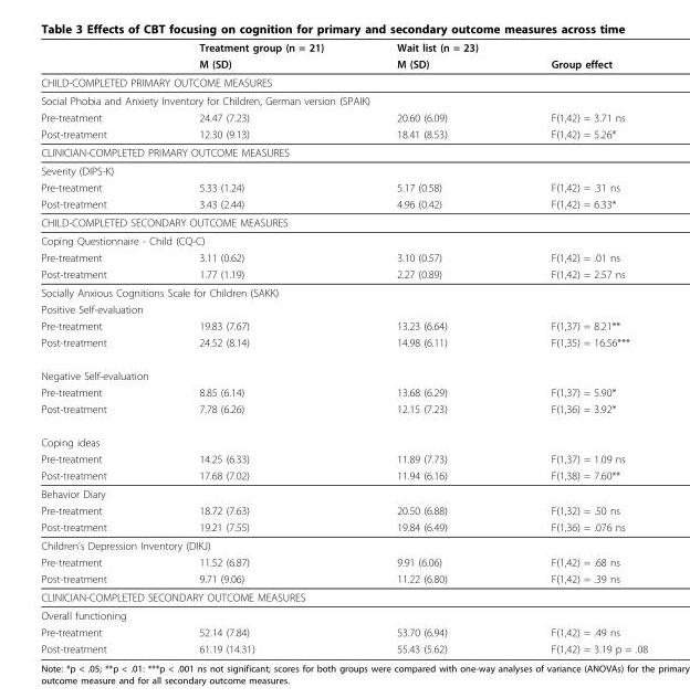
<table><thead><tr><td rowspan="2"></td><td rowspan="2">Treatment group (n = 21) M (SD)</td><td rowspan="2">Wait list (n = 23) M (SD)</td><td rowspan="2">Group effect</td></tr><tr></tr></thead><tbody><tr><td colspan="4">CHILD-COMPLETED PRIMARY OUTCOME MEASURES</td></tr><tr><td colspan="4">Social Phobia and Anxiety Inventory for Children, German version (SPAIK)</td></tr><tr><td>Pre-treatment</td><td>24.47 (7.23)</td><td>20.60 (6.09)</td><td>F(1,42) = 3.71 ns</td></tr><tr><td>Post-treatment</td><td>12.30 (9.13)</td><td>18.41 (8.53)</td><td>F(1,42) = 5.26*</td></tr><tr><td colspan="4">CLINICIAN-COMPLETED PRIMARY OUTCOME MEASURES</td></tr><tr><td colspan="4">Severity (DIPS-K)</td></tr><tr><td>Pre-treatment</td><td>5.33 (1.24)</td><td>5.17 (0.58)</td><td>F(1,42) = .31 ns</td></tr><tr><td>Post-treatment</td><td>3.43 (2.44)</td><td>4.96 (0.42)</td><td>F(1,42) = 6.33*</td></tr><tr><td colspan="4">CHILD-COMPLETED SECONDARY OUTCOME MEASURES</td></tr><tr><td colspan="4">Coping Questionnaire - Child (CQ-C)</td></tr><tr><td>Pre-treatment</td><td>3.11 (0.62)</td><td>3.10 (0.57)</td><td>F(1,42) = .01 ns</td></tr><tr><td>Post-treatment</td><td>1.77 (1.19)</td><td>2.27 (0.89)</td><td>F(1,42) = 2.57 ns</td></tr><tr><td colspan="4">Socially Anxious Cognitions Scale for Children (SAKK)</td></tr><tr><td colspan="4">Positive Self-evaluation</td></tr><tr><td>Pre-treatment</td><td>19.83 (7.67)</td><td>13.23 (6.64)</td><td>F(1,37) = 8.21**</td></tr><tr><td>Post-treatment</td><td>24.52 (8.14)</td><td>14.98 (6.11)</td><td>F(1,35) = 16.56***</td></tr><tr><td colspan="4">Negative Self-evaluation</td></tr><tr><td>Pre-treatment</td><td>8.85 (6.14)</td><td>13.68 (6.29)</td><td>F(1,37) = 5.90*</td></tr><tr><td>Post-treatment</td><td>7.78 (6.26)</td><td>12.15 (7.23)</td><td>F(1,36) = 3.92*</td></tr><tr><td colspan="4">Coping ideas</td></tr><tr><td>Pre-treatment</td><td>14.25 (6.33)</td><td>11.89 (7.73)</td><td>F(1,37) = 1.09 ns</td></tr><tr><td>Post-treatment</td><td>17.68 (7.02)</td><td>11.94 (6.16)</td><td>F(1,38) = 7.60**</td></tr><tr><td colspan="4">Behavior Diary</td></tr><tr><td>Pre-treatment</td><td>18.72 (7.63)</td><td>20.50 (6.88)</td><td>F(1,32) = .50 ns</td></tr><tr><td>Post-treatment</td><td>19.21 (7.55)</td><td>19.84 (6.49)</td><td>F(1,36) = .076 ns</td></tr><tr><td colspan="4">Children’s Depression Inventory (DIKJ)</td></tr><tr><td>Pre-treatment</td><td>11.52 (6.87)</td><td>9.91 (6.06)</td><td>F(1,42) = .68 ns</td></tr><tr><td>Post-treatment</td><td>9.71 (9.06)</td><td>11.22 (6.80)</td><td>F(1,42) = .39 ns</td></tr><tr><td colspan="4">CLINICIAN-COMPLETED SECONDARY OUTCOME MEASURES</td></tr><tr><td colspan="4">Overall functioning</td></tr><tr><td>Pre-treatment</td><td>52.14 (7.84)</td><td>53.70 (6.94)</td><td>F(1,42) = .49 ns</td></tr><tr><td>Post-treatment</td><td>61.19 (14.31)</td><td>55.43 (5.62)</td><td>F(1,42) = 3.19 p = .08</td></tr></tbody></table>